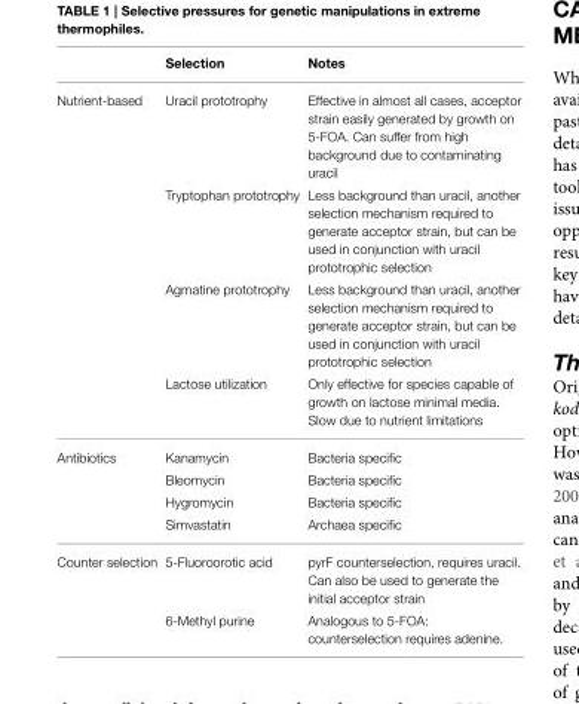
<table><thead><tr><td></td><td>Selection</td><td>Notes</td></tr></thead><tbody><tr><td rowspan="4">Nutrient-based</td><td>Uracil prototrophy</td><td>Effective in almost all cases, acceptor strain easily generated by growth on 5-FOA. Can suffer from high background due to contaminating uracil</td></tr><tr><td>Tryptophan prototrophy</td><td>Less background than uracil, another selection mechanism required to generate acceptor strain, but can be used in conjunction with uracil prototrophic selection</td></tr><tr><td>Agmatine prototrophy</td><td>Less background than uracil, another selection mechanism required to generate acceptor strain, but can be used in conjunction with uracil prototrophic selection</td></tr><tr><td>Lactose utilization</td><td>Only effective for species capable of growth on lactose minimal media. Slow due to nutrient limitations</td></tr><tr><td rowspan="4">Antibiotics</td><td>Kanamycin</td><td>Bacteria specific</td></tr><tr><td>Bleomycin</td><td>Bacteria specific</td></tr><tr><td>Hygromycin</td><td>Bacteria specific</td></tr><tr><td>Simvastatin</td><td>Archaea specific</td></tr><tr><td rowspan="2">Counter selection</td><td>5-Fluoroorotic acid</td><td>pyrF counterselection, requires uracil. Can also be used to generate the initial acceptor strain</td></tr><tr><td>6-Methyl purine</td><td>Analogous to 5-FOA: counterselection requires adenine.</td></tr></tbody></table>